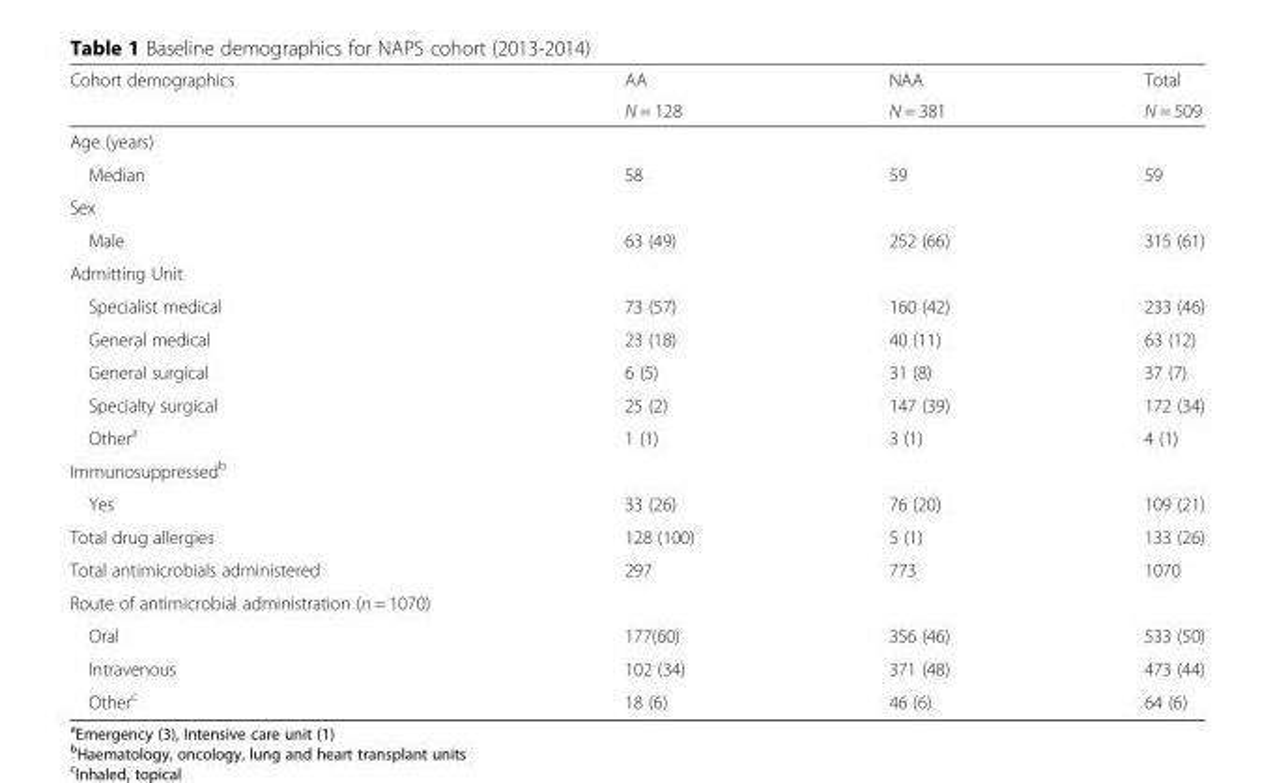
<table><thead><tr><td rowspan="2">Cohort demographics</td><td rowspan="2">AA N = 128</td><td rowspan="2">NAA N = 381</td><td rowspan="2">Total N = 509</td></tr><tr></tr></thead><tbody><tr><td colspan="4">Age (years)</td></tr><tr><td>Median</td><td>58</td><td>59</td><td>59</td></tr><tr><td colspan="4">Sex</td></tr><tr><td>Male</td><td>63 (49)</td><td>252 (66)</td><td>315 (61)</td></tr><tr><td colspan="4">Admitting Unit</td></tr><tr><td>Specialist medical</td><td>73 (57)</td><td>160 (42)</td><td>233 (46)</td></tr><tr><td>General medical</td><td>23 (18)</td><td>40 (11)</td><td>63 (12)</td></tr><tr><td>General surgical</td><td>6 (5)</td><td>31 (8)</td><td>37 (7)</td></tr><tr><td>Specialty surgical</td><td>25 (2)</td><td>147 (39)</td><td>172 (34)</td></tr><tr><td>Other<sup>a</sup></td><td>1 (1)</td><td>3 (1)</td><td>4 (1)</td></tr><tr><td colspan="4">Immunosuppressed<sup>b</sup></td></tr><tr><td>Yes</td><td>33 (26)</td><td>76 (20)</td><td>109 (21)</td></tr><tr><td>Total drug allergies</td><td>128 (100)</td><td>5 (1)</td><td>133 (26)</td></tr><tr><td>Total antimicrobials administered</td><td>297</td><td>773</td><td>1070</td></tr><tr><td colspan="4">Route of antimicrobial administration (n = 1070)</td></tr><tr><td>Oral</td><td>177(60)</td><td>356 (46)</td><td>533 (50)</td></tr><tr><td>Intravenous</td><td>102 (34)</td><td>371 (48)</td><td>473 (44)</td></tr><tr><td>Other<sup>c</sup></td><td>18 (6)</td><td>46 (6)</td><td>64 (6)</td></tr></tbody></table>